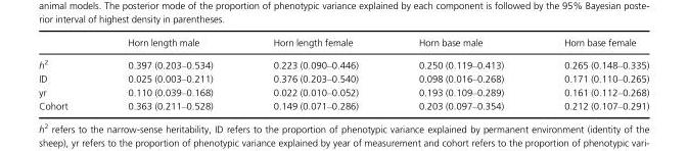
<table><thead><tr><td></td><td>Horn length male</td><td>Horn length female</td><td>Horn base male</td><td>Horn base female</td></tr></thead><tbody><tr><td>h<sup>2</sup></td><td>0.397 (0.203–0.534)</td><td>0.223 (0.090–0.446)</td><td>0.250 (0.119–0.413)</td><td>0.265 (0.148–0.335)</td></tr><tr><td>ID</td><td>0.025 (0.003–0.211)</td><td>0.376 (0.203–0.540)</td><td>0.098 (0.016–0.268)</td><td>0.171 (0.110–0.265)</td></tr><tr><td>yr</td><td>0.110 (0.039–0.168)</td><td>0.022 (0.010–0.052)</td><td>0.193 (0.109–0.289)</td><td>0.161 (0.112–0.268)</td></tr><tr><td>Cohort</td><td>0.363 (0.211–0.528)</td><td>0.149 (0.071–0.286)</td><td>0.203 (0.097–0.354)</td><td>0.212 (0.107–0.291)</td></tr></tbody></table>